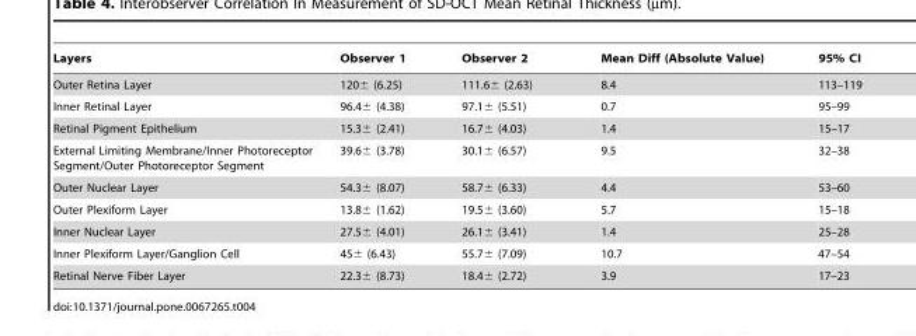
<table><thead><tr><td>Layers</td><td>Observer 1</td><td>Observer 2</td><td>Mean Diff (Absolute Value)</td><td>95% CI</td></tr></thead><tbody><tr><td>Outer Retina Layer</td><td>120± (6.25)</td><td>111.6± (2.63)</td><td>8.4</td><td>113–119</td></tr><tr><td>Inner Retinal Layer</td><td>96.4± (4.38)</td><td>97.1± (5.51)</td><td>0.7</td><td>95–99</td></tr><tr><td>Retinal Pigment Epithelium</td><td>15.3± (2.41)</td><td>16.7± (4.03)</td><td>1.4</td><td>15–17</td></tr><tr><td>External Limiting Membrane/Inner Photoreceptor Segment/Outer Photoreceptor Segment</td><td>39.6± (3.78)</td><td>30.1± (6.57)</td><td>9.5</td><td>32–38</td></tr><tr><td>Outer Nuclear Layer</td><td>54.3± (8.07)</td><td>58.7± (6.33)</td><td>4.4</td><td>53–60</td></tr><tr><td>Outer Plexiform Layer</td><td>13.8± (1.62)</td><td>19.5± (3.60)</td><td>5.7</td><td>15–18</td></tr><tr><td>Inner Nuclear Layer</td><td>27.5± (4.01)</td><td>26.1± (3.41)</td><td>1.4</td><td>25–28</td></tr><tr><td>Inner Plexiform Layer/Ganglion Cell</td><td>45± (6.43)</td><td>55.7± (7.09)</td><td>10.7</td><td>47–54</td></tr><tr><td>Retinal Nerve Fiber Layer</td><td>22.3± (8.73)</td><td>18.4± (2.72)</td><td>3.9</td><td>17–23</td></tr></tbody></table>